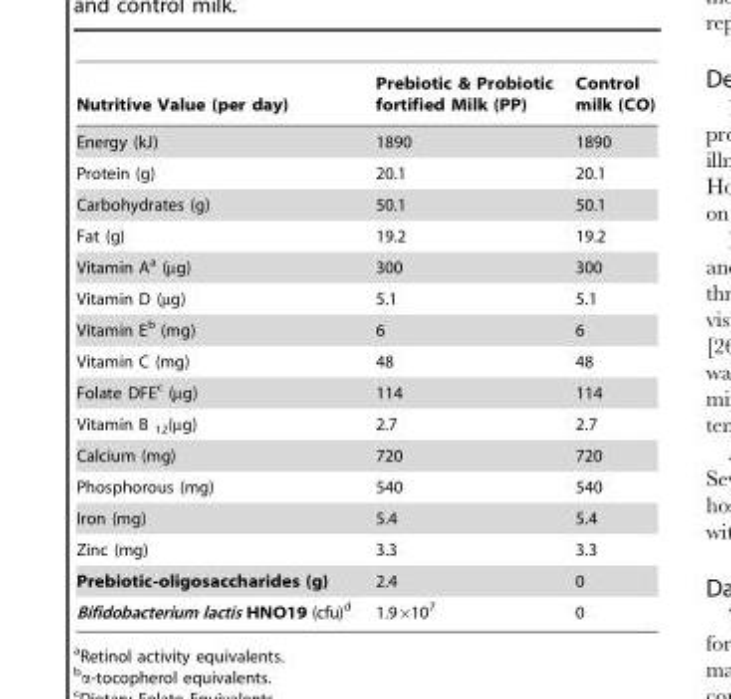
<table><thead><tr><td>Nutritive Value (per day)</td><td>Prebiotic &amp; Probiotic fortified Milk (PP)</td><td>Control milk (CO)</td></tr></thead><tbody><tr><td>Energy (kJ)</td><td>1890</td><td>1890</td></tr><tr><td>Protein (g)</td><td>20.1</td><td>20.1</td></tr><tr><td>Carbohydrates (g)</td><td>50.1</td><td>50.1</td></tr><tr><td>Fat (g)</td><td>19.2</td><td>19.2</td></tr><tr><td>Vitamin A<sup>a</sup> (µg)</td><td>300</td><td>300</td></tr><tr><td>Vitamin D (µg)</td><td>5.1</td><td>5.1</td></tr><tr><td>Vitamin E<sup>b</sup> (mg)</td><td>6</td><td>6</td></tr><tr><td>Vitamin C (mg)</td><td>48</td><td>48</td></tr><tr><td>Folate DFE<sup>c</sup> (µg)</td><td>114</td><td>114</td></tr><tr><td>Vitamin B <sub>12</sub>(µg)</td><td>2.7</td><td>2.7</td></tr><tr><td>Calcium (mg)</td><td>720</td><td>720</td></tr><tr><td>Phosphorous (mg)</td><td>540</td><td>540</td></tr><tr><td>Iron (mg)</td><td>5.4</td><td>5.4</td></tr><tr><td>Zinc (mg)</td><td>3.3</td><td>3.3</td></tr><tr><td>Prebiotic-oligosaccharides (g)</td><td>2.4</td><td>0</td></tr><tr><td>Bifidobacterium lactis HNO19 (cfu)<sup>d</sup></td><td>1.9×10<sup>7</sup></td><td>0</td></tr></tbody></table>